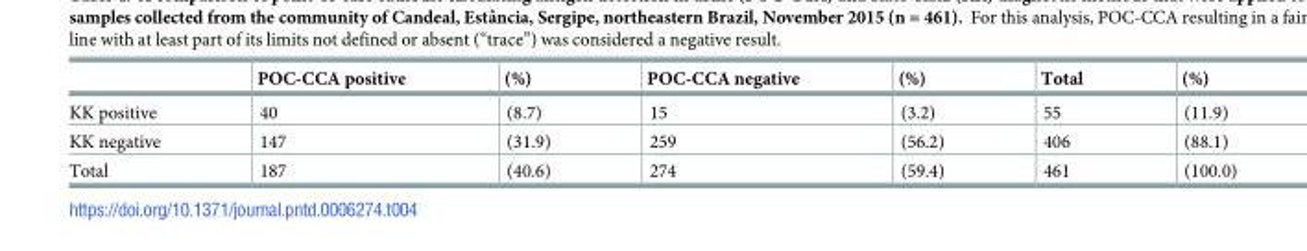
<table><thead><tr><td></td><td>POC-CCA positive</td><td>(%)</td><td>POC-CCA negative</td><td>(%)</td><td>Total</td><td>(%)</td></tr></thead><tbody><tr><td>KK positive</td><td>40</td><td>(8.7)</td><td>15</td><td>(3.2)</td><td>55</td><td>(11.9)</td></tr><tr><td>KK negative</td><td>147</td><td>(31.9)</td><td>259</td><td>(56.2)</td><td>406</td><td>(88.1)</td></tr><tr><td>Total</td><td>187</td><td>(40.6)</td><td>274</td><td>(59.4)</td><td>461</td><td>(100.0)</td></tr></tbody></table>